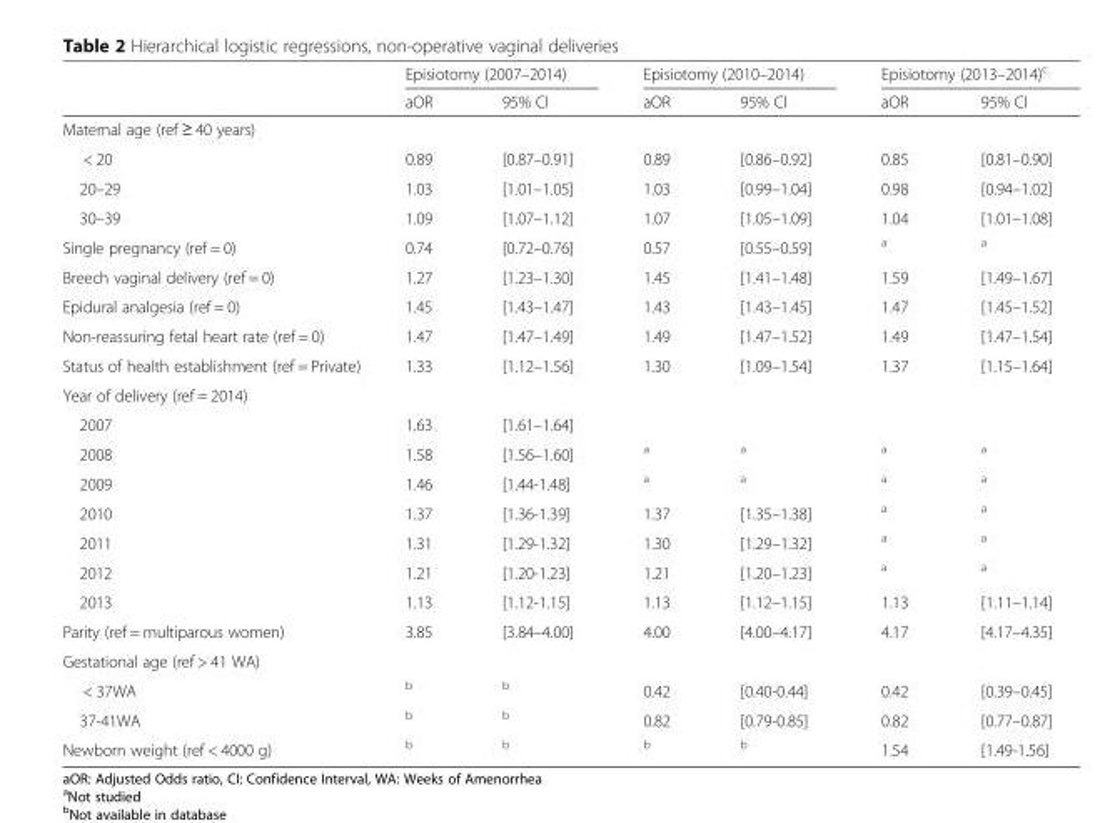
<table><thead><tr><td rowspan="2"></td><td colspan="2">Episiotomy (2007–2014)</td><td colspan="2">Episiotomy (2010–2014)</td><td colspan="2">Episiotomy (2013–2014)<sup>c</sup></td></tr><tr><td>aOR</td><td>95% CI</td><td>aOR</td><td>95% CI</td><td>aOR</td><td>95% CI</td></tr></thead><tbody><tr><td colspan="7">Maternal age (ref ≥ 40 years)</td></tr><tr><td>&lt; 20</td><td>0.89</td><td>[0.87–0.91]</td><td>0.89</td><td>[0.86–0.92]</td><td>0.85</td><td>[0.81–0.90]</td></tr><tr><td>20–29</td><td>1.03</td><td>[1.01–1.05]</td><td>1.03</td><td>[0.99–1.04]</td><td>0.98</td><td>[0.94–1.02]</td></tr><tr><td>30–39</td><td>1.09</td><td>[1.07–1.12]</td><td>1.07</td><td>[1.05–1.09]</td><td>1.04</td><td>[1.01–1.08]</td></tr><tr><td>Single pregnancy (ref = 0)</td><td>0.74</td><td>[0.72–0.76]</td><td>0.57</td><td>[0.55–0.59]</td><td><sup>a</sup></td><td><sup>a</sup></td></tr><tr><td>Breech vaginal delivery (ref = 0)</td><td>1.27</td><td>[1.23–1.30]</td><td>1.45</td><td>[1.41–1.48]</td><td>1.59</td><td>[1.49–1.67]</td></tr><tr><td>Epidural analgesia (ref = 0)</td><td>1.45</td><td>[1.43–1.47]</td><td>1.43</td><td>[1.43–1.45]</td><td>1.47</td><td>[1.45–1.52]</td></tr><tr><td>Non-reassuring fetal heart rate (ref = 0)</td><td>1.47</td><td>[1.47–1.49]</td><td>1.49</td><td>[1.47–1.52]</td><td>1.49</td><td>[1.47–1.54]</td></tr><tr><td>Status of health establishment (ref = Private)</td><td>1.33</td><td>[1.12–1.56]</td><td>1.30</td><td>[1.09–1.54]</td><td>1.37</td><td>[1.15–1.64]</td></tr><tr><td colspan="7">Year of delivery (ref = 2014)</td></tr><tr><td>2007</td><td>1.63</td><td>[1.61–1.64]</td><td></td><td></td><td></td><td></td></tr><tr><td>2008</td><td>1.58</td><td>[1.56–1.60]</td><td><sup>a</sup></td><td><sup>a</sup></td><td><sup>a</sup></td><td><sup>a</sup></td></tr><tr><td>2009</td><td>1.46</td><td>[1.44-1.48]</td><td><sup>a</sup></td><td><sup>a</sup></td><td><sup>a</sup></td><td><sup>a</sup></td></tr><tr><td>2010</td><td>1.37</td><td>[1.36-1.39]</td><td>1.37</td><td>[1.35–1.38]</td><td><sup>a</sup></td><td><sup>a</sup></td></tr><tr><td>2011</td><td>1.31</td><td>[1.29-1.32]</td><td>1.30</td><td>[1.29–1.32]</td><td><sup>a</sup></td><td><sup>a</sup></td></tr><tr><td>2012</td><td>1.21</td><td>[1.20-1.23]</td><td>1.21</td><td>[1.20–1.23]</td><td><sup>a</sup></td><td><sup>a</sup></td></tr><tr><td>2013</td><td>1.13</td><td>[1.12-1.15]</td><td>1.13</td><td>[1.12–1.15]</td><td>1.13</td><td>[1.11–1.14]</td></tr><tr><td>Parity (ref = multiparous women)</td><td>3.85</td><td>[3.84–4.00]</td><td>4.00</td><td>[4.00–4.17]</td><td>4.17</td><td>[4.17–4.35]</td></tr><tr><td colspan="7">Gestational age (ref &gt; 41 WA)</td></tr><tr><td>&lt; 37WA</td><td><sup>b</sup></td><td><sup>b</sup></td><td>0.42</td><td>[0.40-0.44]</td><td>0.42</td><td>[0.39–0.45]</td></tr><tr><td>37-41WA</td><td><sup>b</sup></td><td><sup>b</sup></td><td>0.82</td><td>[0.79-0.85]</td><td>0.82</td><td>[0.77–0.87]</td></tr><tr><td>Newborn weight (ref &lt; 4000 g)</td><td><sup>b</sup></td><td><sup>b</sup></td><td><sup>b</sup></td><td><sup>b</sup></td><td>1.54</td><td>[1.49-1.56]</td></tr></tbody></table>